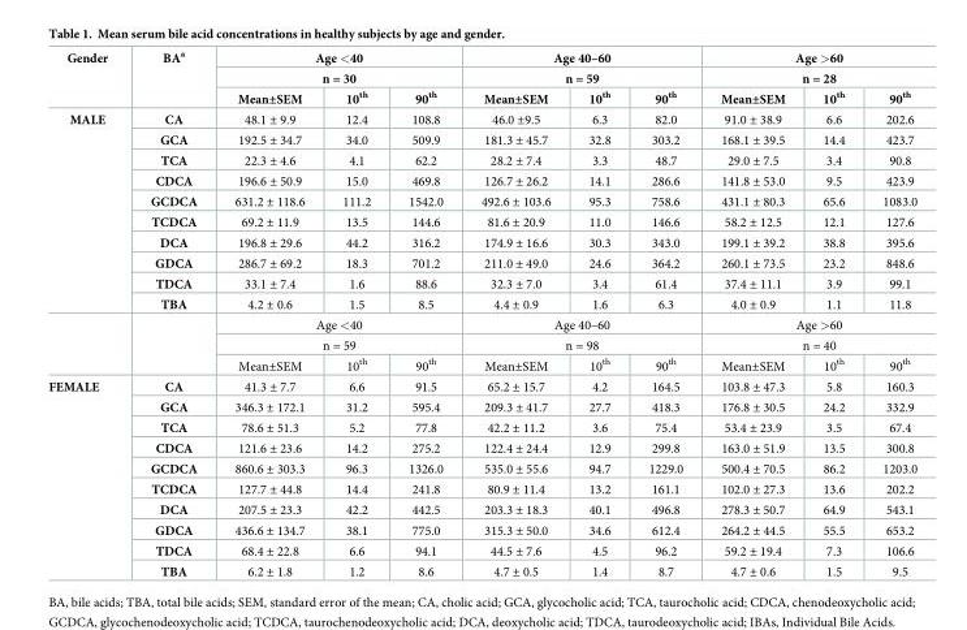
<table><thead><tr><td rowspan="3">Gender</td><td rowspan="3">BA<sup>a</sup></td><td rowspan="2" colspan="3">Age &lt;40 n = 30</td><td rowspan="2" colspan="3">Age 40–60 n = 59</td><td rowspan="2" colspan="3">Age &gt;60 n = 28</td></tr><tr></tr><tr><td>Mean±SEM</td><td>10<sup>th</sup></td><td>90<sup>th</sup></td><td>Mean±SEM</td><td>10<sup>th</sup></td><td>90<sup>th</sup></td><td>Mean±SEM</td><td>10<sup>th</sup></td><td>90<sup>th</sup></td></tr></thead><tbody><tr><td rowspan="13">MALE</td><td>CA</td><td>48.1 ± 9.9</td><td>12.4</td><td>108.8</td><td>46.0 ±9.5</td><td>6.3</td><td>82.0</td><td>91.0 ± 38.9</td><td>6.6</td><td>202.6</td></tr><tr><td>GCA</td><td>192.5 ± 34.7</td><td>34.0</td><td>509.9</td><td>181.3 ± 45.7</td><td>32.8</td><td>303.2</td><td>168.1 ± 39.5</td><td>14.4</td><td>423.7</td></tr><tr><td>TCA</td><td>22.3 ± 4.6</td><td>4.1</td><td>62.2</td><td>28.2 ± 7.4</td><td>3.3</td><td>48.7</td><td>29.0 ± 7.5</td><td>3.4</td><td>90.8</td></tr><tr><td>CDCA</td><td>196.6 ± 50.9</td><td>15.0</td><td>469.8</td><td>126.7 ± 26.2</td><td>14.1</td><td>286.6</td><td>141.8 ± 53.0</td><td>9.5</td><td>423.9</td></tr><tr><td>GCDCA</td><td>631.2 ± 118.6</td><td>111.2</td><td>1542.0</td><td>492.6 ± 103.6</td><td>95.3</td><td>758.6</td><td>431.1 ± 80.3</td><td>65.6</td><td>1083.0</td></tr><tr><td>TCDCA</td><td>69.2 ± 11.9</td><td>13.5</td><td>144.6</td><td>81.6 ± 20.9</td><td>11.0</td><td>146.6</td><td>58.2 ± 12.5</td><td>12.1</td><td>127.6</td></tr><tr><td>DCA</td><td>196.8 ± 29.6</td><td>44.2</td><td>316.2</td><td>174.9 ± 16.6</td><td>30.3</td><td>343.0</td><td>199.1 ± 39.2</td><td>38.8</td><td>395.6</td></tr><tr><td>GDCA</td><td>286.7 ± 69.2</td><td>18.3</td><td>701.2</td><td>211.0 ± 49.0</td><td>24.6</td><td>364.2</td><td>260.1 ± 73.5</td><td>23.2</td><td>848.6</td></tr><tr><td>TDCA</td><td>33.1 ± 7.4</td><td>1.6</td><td>88.6</td><td>32.3 ± 7.0</td><td>3.4</td><td>61.4</td><td>37.4 ± 11.1</td><td>3.9</td><td>99.1</td></tr><tr><td>TBA</td><td>4.2 ± 0.6</td><td>1.5</td><td>8.5</td><td>4.4 ± 0.9</td><td>1.6</td><td>6.3</td><td>4.0 ± 0.9</td><td>1.1</td><td>11.8</td></tr><tr><td rowspan="3"></td><td colspan="3">Age &lt;40</td><td colspan="3">Age 40–60</td><td colspan="3">Age &gt;60</td></tr><tr><td colspan="3">n = 59</td><td colspan="3">n = 98</td><td colspan="3">n = 40</td></tr><tr><td>Mean±SEM</td><td>10<sup>th</sup></td><td>90<sup>th</sup></td><td>Mean±SEM</td><td>10<sup>th</sup></td><td>90<sup>th</sup></td><td>Mean±SEM</td><td>10<sup>th</sup></td><td>90<sup>th</sup></td></tr><tr><td rowspan="10">FEMALE</td><td>CA</td><td>41.3 ± 7.7</td><td>6.6</td><td>91.5</td><td>65.2 ± 15.7</td><td>4.2</td><td>164.5</td><td>103.8 ± 47.3</td><td>5.8</td><td>160.3</td></tr><tr><td>GCA</td><td>346.3 ± 172.1</td><td>31.2</td><td>595.4</td><td>209.3 ± 41.7</td><td>27.7</td><td>418.3</td><td>176.8 ± 30.5</td><td>24.2</td><td>332.9</td></tr><tr><td>TCA</td><td>78.6 ± 51.3</td><td>5.2</td><td>77.8</td><td>42.2 ± 11.2</td><td>3.6</td><td>75.4</td><td>53.4 ± 23.9</td><td>3.5</td><td>67.4</td></tr><tr><td>CDCA</td><td>121.6 ± 23.6</td><td>14.2</td><td>275.2</td><td>122.4 ± 24.4</td><td>12.9</td><td>299.8</td><td>163.0 ± 51.9</td><td>13.5</td><td>300.8</td></tr><tr><td>GCDCA</td><td>860.6 ± 303.3</td><td>96.3</td><td>1326.0</td><td>535.0 ± 55.6</td><td>94.7</td><td>1229.0</td><td>500.4 ± 70.5</td><td>86.2</td><td>1203.0</td></tr><tr><td>TCDCA</td><td>127.7 ± 44.8</td><td>14.4</td><td>241.8</td><td>80.9 ± 11.4</td><td>13.2</td><td>161.1</td><td>102.0 ± 27.3</td><td>13.6</td><td>202.2</td></tr><tr><td>DCA</td><td>207.5 ± 23.3</td><td>42.2</td><td>442.5</td><td>203.3 ± 18.3</td><td>40.1</td><td>496.8</td><td>278.3 ± 50.7</td><td>64.9</td><td>543.1</td></tr><tr><td>GDCA</td><td>436.6 ± 134.7</td><td>38.1</td><td>775.0</td><td>315.3 ± 50.0</td><td>34.6</td><td>612.4</td><td>264.2 ± 44.5</td><td>55.5</td><td>653.2</td></tr><tr><td>TDCA</td><td>68.4 ± 22.8</td><td>6.6</td><td>94.1</td><td>44.5 ± 7.6</td><td>4.5</td><td>96.2</td><td>59.2 ± 19.4</td><td>7.3</td><td>106.6</td></tr><tr><td>TBA</td><td>6.2 ± 1.8</td><td>1.2</td><td>8.6</td><td>4.7 ± 0.5</td><td>1.4</td><td>8.7</td><td>4.7 ± 0.6</td><td>1.5</td><td>9.5</td></tr></tbody></table>